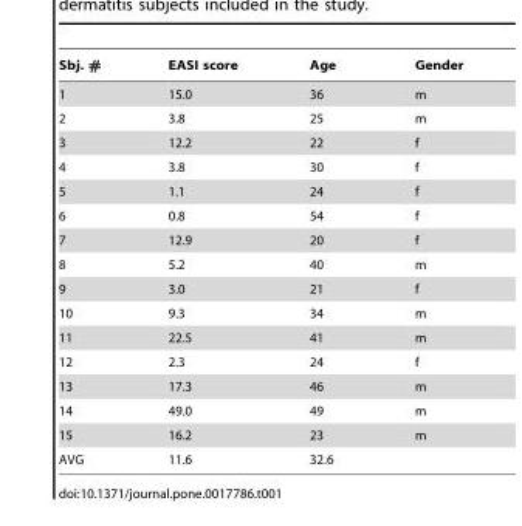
<table><thead><tr><td>Sbj. #</td><td>EASI score</td><td>Age</td><td>Gender</td></tr></thead><tbody><tr><td>1</td><td>15.0</td><td>36</td><td>m</td></tr><tr><td>2</td><td>3.8</td><td>25</td><td>m</td></tr><tr><td>3</td><td>12.2</td><td>22</td><td>f</td></tr><tr><td>4</td><td>3.8</td><td>30</td><td>f</td></tr><tr><td>5</td><td>1.1</td><td>24</td><td>f</td></tr><tr><td>6</td><td>0.8</td><td>54</td><td>f</td></tr><tr><td>7</td><td>12.9</td><td>20</td><td>f</td></tr><tr><td>8</td><td>5.2</td><td>40</td><td>m</td></tr><tr><td>9</td><td>3.0</td><td>21</td><td>f</td></tr><tr><td>10</td><td>9.3</td><td>34</td><td>m</td></tr><tr><td>11</td><td>22.5</td><td>41</td><td>m</td></tr><tr><td>12</td><td>2.3</td><td>24</td><td>f</td></tr><tr><td>13</td><td>17.3</td><td>46</td><td>m</td></tr><tr><td>14</td><td>49.0</td><td>49</td><td>m</td></tr><tr><td>15</td><td>16.2</td><td>23</td><td>m</td></tr><tr><td>AVG</td><td>11.6</td><td>32.6</td><td></td></tr></tbody></table>